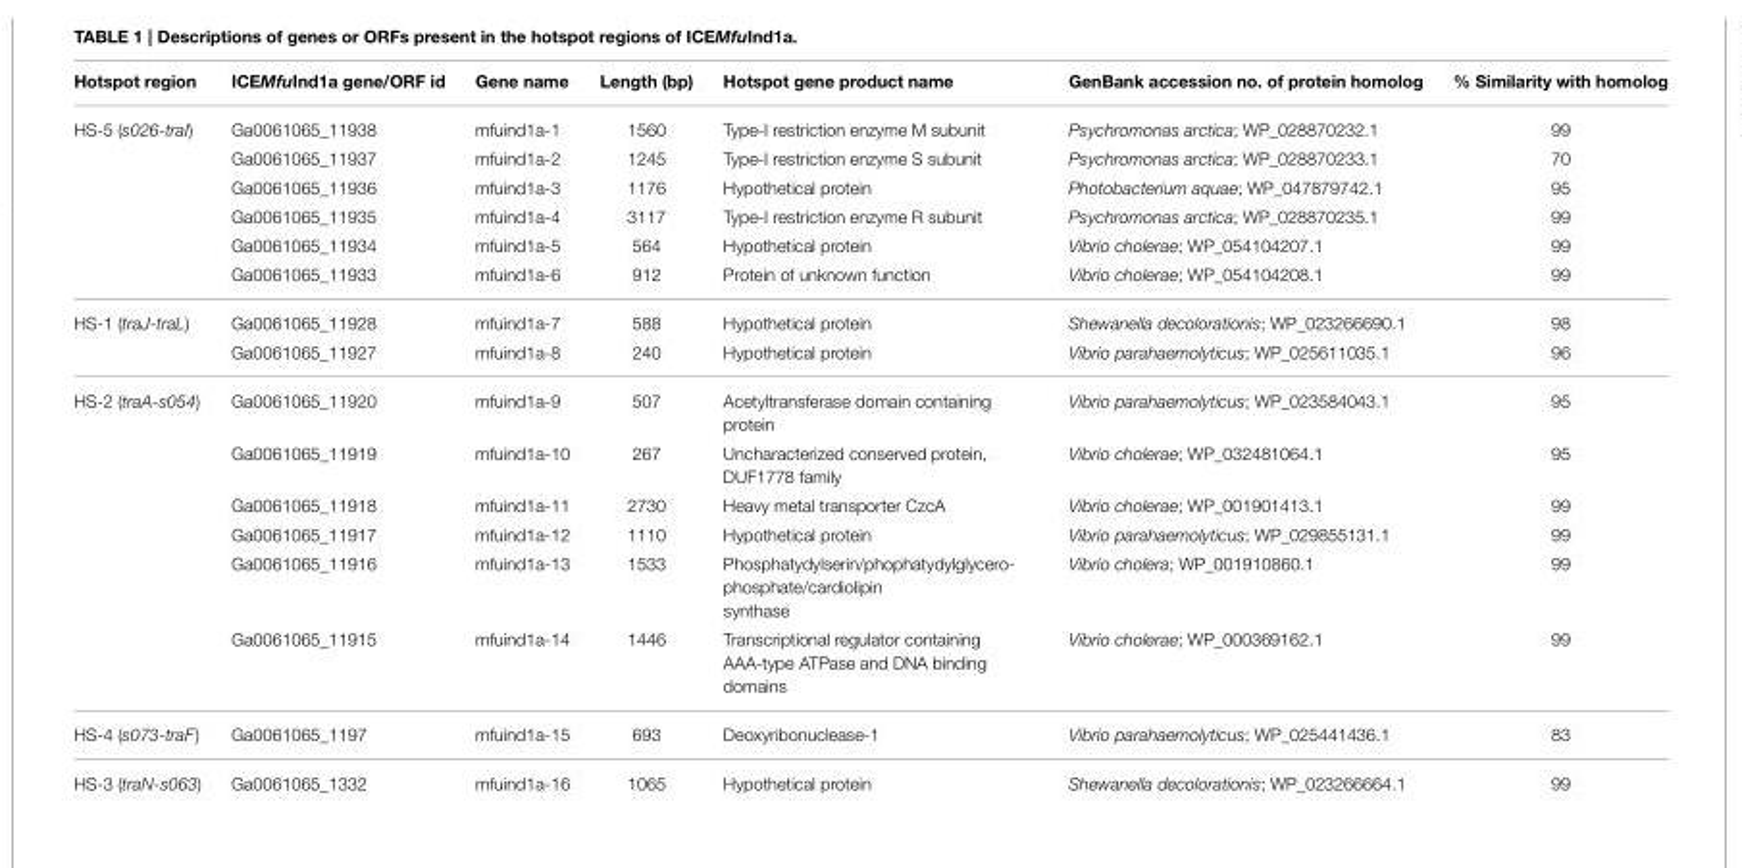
<table><thead><tr><td>Hotspot region</td><td>ICEMfuInd1a gene/ORF id</td><td>Gene name</td><td>Length (bp)</td><td>Hotspot gene product name</td><td>GenBank accession no. of protein homolog</td><td>% Similarity with homolog</td></tr></thead><tbody><tr><td rowspan="6">HS-5 (s026-traI)</td><td>Ga0061065_11938</td><td>mfuind1a-1</td><td>1560</td><td>Type-I restriction enzyme M subunit</td><td>Psychromonas arctica; WP_028870232.1</td><td>99</td></tr><tr><td>Ga0061065_11937</td><td>mfuind1a-2</td><td>1245</td><td>Type-I restriction enzyme S subunit</td><td>Psychromonas arctica; WP_028870233.1</td><td>70</td></tr><tr><td>Ga0061065_11936</td><td>mfuind1a-3</td><td>1176</td><td>Hypothetical protein</td><td>Photobacterium aquae; WP_047879742.1</td><td>95</td></tr><tr><td>Ga0061065_11935</td><td>mfuind1a-4</td><td>3117</td><td>Type-I restriction enzyme R subunit</td><td>Psychromonas arctica; WP_028870235.1</td><td>99</td></tr><tr><td>Ga0061065_11934</td><td>mfuind1a-5</td><td>564</td><td>Hypothetical protein</td><td>Vibrio cholerae; WP_054104207.1</td><td>99</td></tr><tr><td>Ga0061065_11933</td><td>mfuind1a-6</td><td>912</td><td>Protein of unknown function</td><td>Vibrio cholerae; WP_054104208.1</td><td>99</td></tr><tr><td rowspan="2">HS-1 (traJ-traL)</td><td>Ga0061065_11928</td><td>mfuind1a-7</td><td>588</td><td>Hypothetical protein</td><td>Shewanella decolorationis; WP_023266690.1</td><td>98</td></tr><tr><td>Ga0061065_11927</td><td>mfuind1a-8</td><td>240</td><td>Hypothetical protein</td><td>Vibrio parahaemolyticus; WP_025611035.1</td><td>96</td></tr><tr><td rowspan="6">HS-2 (traA-s054)</td><td>Ga0061065_11920</td><td>mfuind1a-9</td><td>507</td><td>Acetyltransferase domain containing protein</td><td>Vibrio parahaemolyticus; WP_023584043.1</td><td>95</td></tr><tr><td>Ga0061065_11919</td><td>mfuind1a-10</td><td>267</td><td>Uncharacterized conserved protein, DUF1778 family</td><td>Vibrio cholerae; WP_032481064.1</td><td>95</td></tr><tr><td>Ga0061065_11918</td><td>mfuind1a-11</td><td>2730</td><td>Heavy metal transporter CzcA</td><td>Vibrio cholerae; WP_001901413.1</td><td>99</td></tr><tr><td>Ga0061065_11917</td><td>mfuind1a-12</td><td>1110</td><td>Hypothetical protein</td><td>Vibrio parahaemolyticus; WP_029855131.1</td><td>99</td></tr><tr><td>Ga0061065_11916</td><td>mfuind1a-13</td><td>1533</td><td>Phosphatydylserin/phophatydylglycero- phosphate/cardiolipin synthase</td><td>Vibrio cholera; WP_001910860.1</td><td>99</td></tr><tr><td>Ga0061065_11915</td><td>mfuind1a-14</td><td>1446</td><td>Transcriptional regulator containing AAA-type ATPase and DNA binding domains</td><td>Vibrio cholerae; WP_000369162.1</td><td>99</td></tr><tr><td>HS-4 (s073-traF)</td><td>Ga0061065_1197</td><td>mfuind1a-15</td><td>693</td><td>Deoxyribonuclease-1</td><td>Vibrio parahaemolyticus; WP_025441436.1</td><td>83</td></tr><tr><td>HS-3 (traN-s063)</td><td>Ga0061065_1332</td><td>mfuind1a-16</td><td>1065</td><td>Hypothetical protein</td><td>Shewanella decolorationis; WP_023266664.1</td><td>99</td></tr></tbody></table>